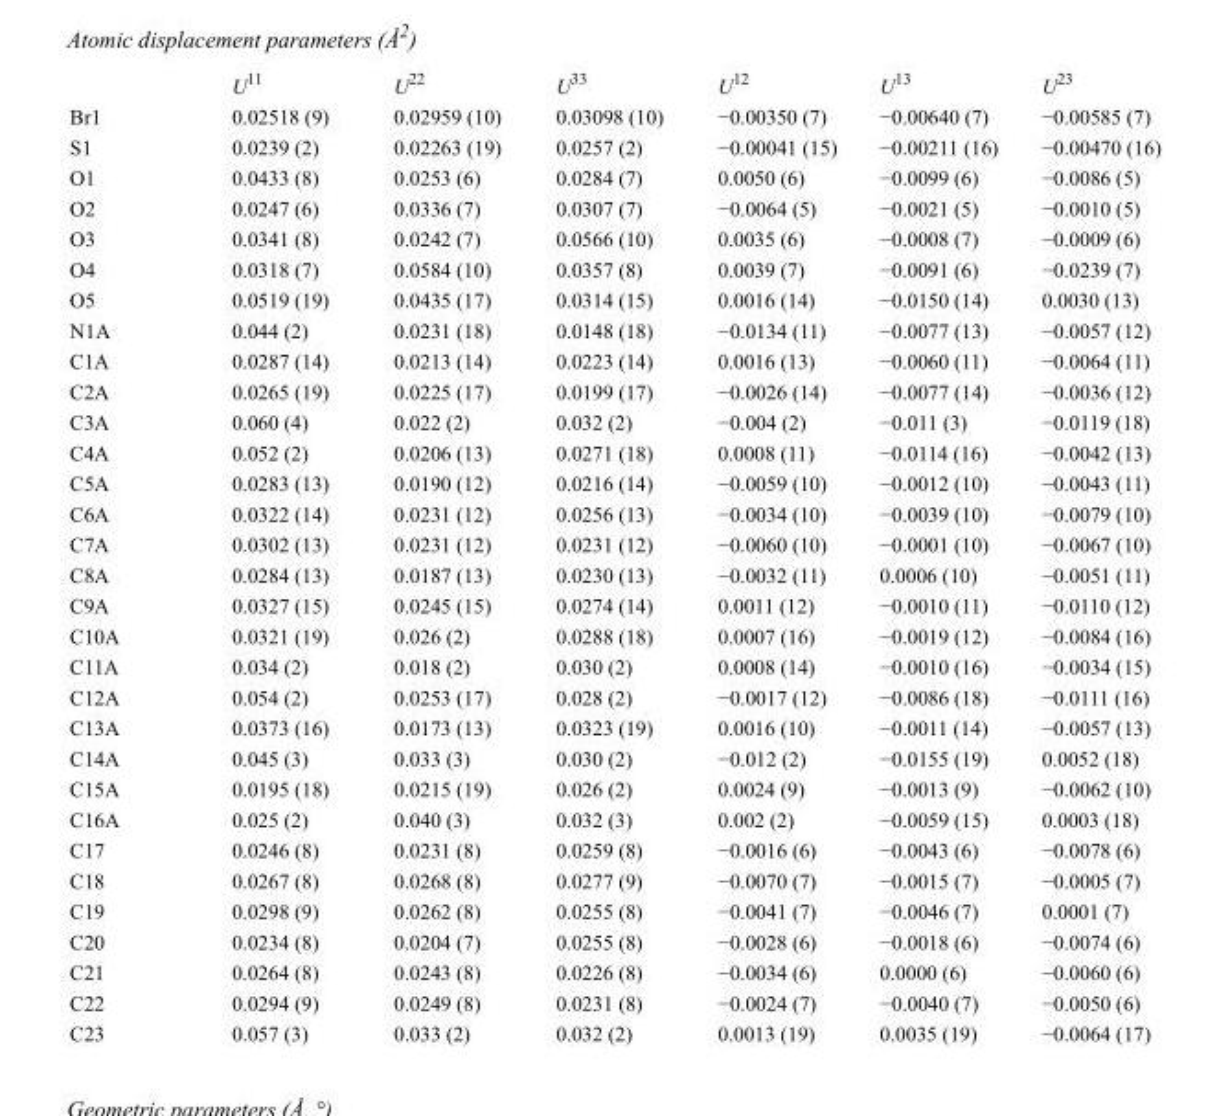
<table><thead><tr><td></td><td>U<sup>11</sup></td><td>U<sup>22</sup></td><td>U<sup>33</sup></td><td>U<sup>12</sup></td><td>U<sup>13</sup></td><td>U<sup>23</sup></td></tr></thead><tbody><tr><td>Br1</td><td>0.02518 (9)</td><td>0.02959 (10)</td><td>0.03098 (10)</td><td>−0.00350 (7)</td><td>−0.00640 (7)</td><td>−0.00585 (7)</td></tr><tr><td>S1</td><td>0.0239 (2)</td><td>0.02263 (19)</td><td>0.0257 (2)</td><td>−0.00041 (15)</td><td>−0.00211 (16)</td><td>−0.00470 (16)</td></tr><tr><td>O1</td><td>0.0433 (8)</td><td>0.0253 (6)</td><td>0.0284 (7)</td><td>0.0050 (6)</td><td>−0.0099 (6)</td><td>−0.0086 (5)</td></tr><tr><td>O2</td><td>0.0247 (6)</td><td>0.0336 (7)</td><td>0.0307 (7)</td><td>−0.0064 (5)</td><td>−0.0021 (5)</td><td>−0.0010 (5)</td></tr><tr><td>O3</td><td>0.0341 (8)</td><td>0.0242 (7)</td><td>0.0566 (10)</td><td>0.0035 (6)</td><td>−0.0008 (7)</td><td>−0.0009 (6)</td></tr><tr><td>O4</td><td>0.0318 (7)</td><td>0.0584 (10)</td><td>0.0357 (8)</td><td>0.0039 (7)</td><td>−0.0091 (6)</td><td>−0.0239 (7)</td></tr><tr><td>O5</td><td>0.0519 (19)</td><td>0.0435 (17)</td><td>0.0314 (15)</td><td>0.0016 (14)</td><td>−0.0150 (14)</td><td>0.0030 (13)</td></tr><tr><td>N1A</td><td>0.044 (2)</td><td>0.0231 (18)</td><td>0.0148 (18)</td><td>−0.0134 (11)</td><td>−0.0077 (13)</td><td>−0.0057 (12)</td></tr><tr><td>C1A</td><td>0.0287 (14)</td><td>0.0213 (14)</td><td>0.0223 (14)</td><td>0.0016 (13)</td><td>−0.0060 (11)</td><td>−0.0064 (11)</td></tr><tr><td>C2A</td><td>0.0265 (19)</td><td>0.0225 (17)</td><td>0.0199 (17)</td><td>−0.0026 (14)</td><td>−0.0077 (14)</td><td>−0.0036 (12)</td></tr><tr><td>C3A</td><td>0.060 (4)</td><td>0.022 (2)</td><td>0.032 (2)</td><td>−0.004 (2)</td><td>−0.011 (3)</td><td>−0.0119 (18)</td></tr><tr><td>C4A</td><td>0.052 (2)</td><td>0.0206 (13)</td><td>0.0271 (18)</td><td>0.0008 (11)</td><td>−0.0114 (16)</td><td>−0.0042 (13)</td></tr><tr><td>C5A</td><td>0.0283 (13)</td><td>0.0190 (12)</td><td>0.0216 (14)</td><td>−0.0059 (10)</td><td>−0.0012 (10)</td><td>−0.0043 (11)</td></tr><tr><td>C6A</td><td>0.0322 (14)</td><td>0.0231 (12)</td><td>0.0256 (13)</td><td>−0.0034 (10)</td><td>−0.0039 (10)</td><td>−0.0079 (10)</td></tr><tr><td>C7A</td><td>0.0302 (13)</td><td>0.0231 (12)</td><td>0.0231 (12)</td><td>−0.0060 (10)</td><td>−0.0001 (10)</td><td>−0.0067 (10)</td></tr><tr><td>C8A</td><td>0.0284 (13)</td><td>0.0187 (13)</td><td>0.0230 (13)</td><td>−0.0032 (11)</td><td>0.0006 (10)</td><td>−0.0051 (11)</td></tr><tr><td>C9A</td><td>0.0327 (15)</td><td>0.0245 (15)</td><td>0.0274 (14)</td><td>0.0011 (12)</td><td>−0.0010 (11)</td><td>−0.0110 (12)</td></tr><tr><td>C10A</td><td>0.0321 (19)</td><td>0.026 (2)</td><td>0.0288 (18)</td><td>0.0007 (16)</td><td>−0.0019 (12)</td><td>−0.0084 (16)</td></tr><tr><td>C11A</td><td>0.034 (2)</td><td>0.018 (2)</td><td>0.030 (2)</td><td>0.0008 (14)</td><td>−0.0010 (16)</td><td>−0.0034 (15)</td></tr><tr><td>C12A</td><td>0.054 (2)</td><td>0.0253 (17)</td><td>0.028 (2)</td><td>−0.0017 (12)</td><td>−0.0086 (18)</td><td>−0.0111 (16)</td></tr><tr><td>C13A</td><td>0.0373 (16)</td><td>0.0173 (13)</td><td>0.0323 (19)</td><td>0.0016 (10)</td><td>−0.0011 (14)</td><td>−0.0057 (13)</td></tr><tr><td>C14A</td><td>0.045 (3)</td><td>0.033 (3)</td><td>0.030 (2)</td><td>−0.012 (2)</td><td>−0.0155 (19)</td><td>0.0052 (18)</td></tr><tr><td>C15A</td><td>0.0195 (18)</td><td>0.0215 (19)</td><td>0.026 (2)</td><td>0.0024 (9)</td><td>−0.0013 (9)</td><td>−0.0062 (10)</td></tr><tr><td>C16A</td><td>0.025 (2)</td><td>0.040 (3)</td><td>0.032 (3)</td><td>0.002 (2)</td><td>−0.0059 (15)</td><td>0.0003 (18)</td></tr><tr><td>C17</td><td>0.0246 (8)</td><td>0.0231 (8)</td><td>0.0259 (8)</td><td>−0.0016 (6)</td><td>−0.0043 (6)</td><td>−0.0078 (6)</td></tr><tr><td>C18</td><td>0.0267 (8)</td><td>0.0268 (8)</td><td>0.0277 (9)</td><td>−0.0070 (7)</td><td>−0.0015 (7)</td><td>−0.0005 (7)</td></tr><tr><td>C19</td><td>0.0298 (9)</td><td>0.0262 (8)</td><td>0.0255 (8)</td><td>−0.0041 (7)</td><td>−0.0046 (7)</td><td>0.0001 (7)</td></tr><tr><td>C20</td><td>0.0234 (8)</td><td>0.0204 (7)</td><td>0.0255 (8)</td><td>−0.0028 (6)</td><td>−0.0018 (6)</td><td>−0.0074 (6)</td></tr><tr><td>C21</td><td>0.0264 (8)</td><td>0.0243 (8)</td><td>0.0226 (8)</td><td>−0.0034 (6)</td><td>0.0000 (6)</td><td>−0.0060 (6)</td></tr><tr><td>C22</td><td>0.0294 (9)</td><td>0.0249 (8)</td><td>0.0231 (8)</td><td>−0.0024 (7)</td><td>−0.0040 (7)</td><td>−0.0050 (6)</td></tr><tr><td>C23</td><td>0.057 (3)</td><td>0.033 (2)</td><td>0.032 (2)</td><td>0.0013 (19)</td><td>0.0035 (19)</td><td>−0.0064 (17)</td></tr></tbody></table>